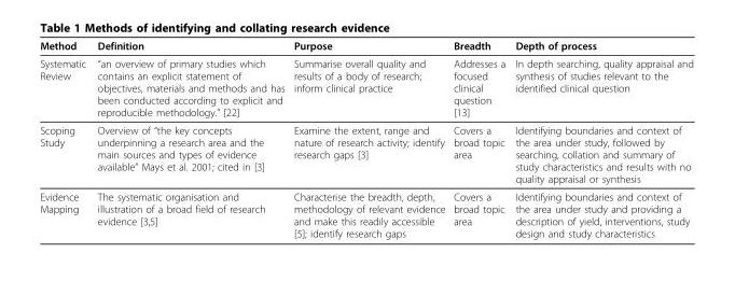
<table><thead><tr><td>Method</td><td>Definition</td><td>Purpose</td><td>Breadth</td><td>Depth of process</td></tr></thead><tbody><tr><td>Systematic Review</td><td>“an overview of primary studies which contains an explicit statement of objectives, materials and methods and has been conducted according to explicit and reproducible methodology.” [22]</td><td>Summarise overall quality and results of a body of research; inform clinical practice</td><td>Addresses a focused clinical question [13]</td><td>In depth searching, quality appraisal and synthesis of studies relevant to the identified clinical question</td></tr><tr><td>Scoping Study</td><td>Overview of “the key concepts underpinning a research area and the main sources and types of evidence available” Mays et al. 2001; cited in [3]</td><td>Examine the extent, range and nature of research activity; identify research gaps [3]</td><td>Covers a broad topic area</td><td>Identifying boundaries and context of the area under study, followed by searching, collation and summary of study characteristics and results with no quality appraisal or synthesis</td></tr><tr><td>Evidence Mapping</td><td>The systematic organisation and illustration of a broad field of research evidence [3,5]</td><td>Characterise the breadth, depth, methodology of relevant evidence and make this readily accessible [5]; identify research gaps</td><td>Covers a broad topic area</td><td>Identifying boundaries and context of the area under study and providing a description of yield, interventions, study design and study characteristics</td></tr></tbody></table>